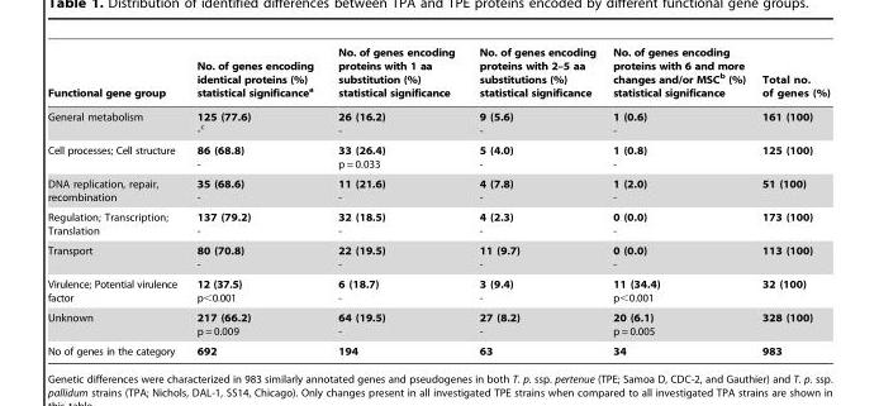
<table><thead><tr><td>Functional gene group</td><td>No. of genes encoding identical proteins (%) statistical significance<sup>a</sup></td><td>No. of genes encoding proteins with 1 aa substitution (%) statistical significance</td><td>No. of genes encoding proteins with 2–5 aa substitutions (%) statistical significance</td><td>No. of genes encoding proteins with 6 and more changes and/or MSC<sup>b</sup> (%) statistical significance</td><td>Total no. of genes (%)</td></tr></thead><tbody><tr><td>General metabolism</td><td>125 (77.6) -c</td><td>26 (16.2) -</td><td>9 (5.6) -</td><td>1 (0.6) -</td><td>161 (100)</td></tr><tr><td>Cell processes; Cell structure</td><td>86 (68.8) -</td><td>33 (26.4) p = 0.033</td><td>5 (4.0) -</td><td>1 (0.8) -</td><td>125 (100)</td></tr><tr><td>DNA replication, repair, recombination</td><td>35 (68.6) -</td><td>11 (21.6) -</td><td>4 (7.8) -</td><td>1 (2.0) -</td><td>51 (100)</td></tr><tr><td>Regulation; Transcription; Translation</td><td>137 (79.2) -</td><td>32 (18.5) -</td><td>4 (2.3) -</td><td>0 (0.0) -</td><td>173 (100)</td></tr><tr><td>Transport</td><td>80 (70.8) -</td><td>22 (19.5) -</td><td>11 (9.7) -</td><td>0 (0.0) -</td><td>113 (100)</td></tr><tr><td>Virulence; Potential virulence factor</td><td>12 (37.5) p&lt;0.001</td><td>6 (18.7) -</td><td>3 (9.4) -</td><td>11 (34.4) p&lt;0.001</td><td>32 (100)</td></tr><tr><td>Unknown</td><td>217 (66.2) p = 0.009</td><td>64 (19.5) -</td><td>27 (8.2) -</td><td>20 (6.1) p = 0.005</td><td>328 (100)</td></tr><tr><td>No of genes in the category</td><td>692</td><td>194</td><td>63</td><td>34</td><td>983</td></tr></tbody></table>